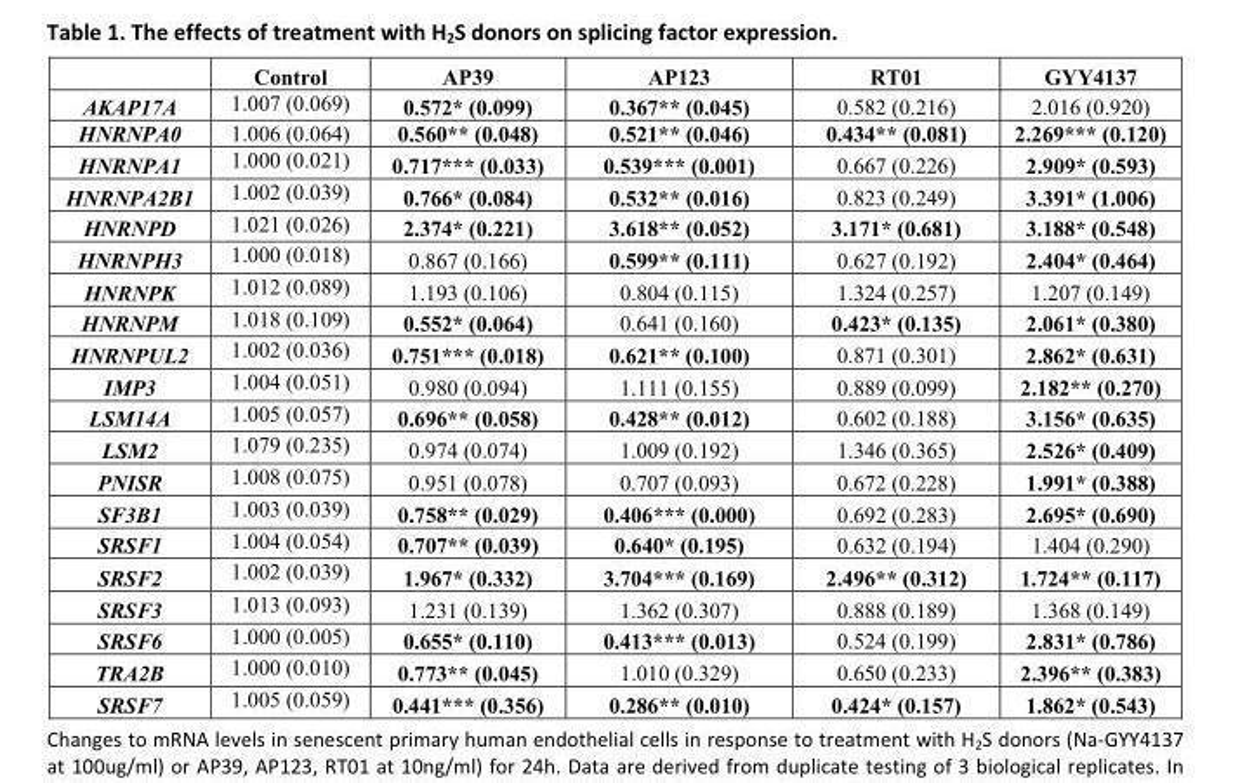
<table><thead><tr><td></td><td>Control</td><td>AP39</td><td>AP123</td><td>RT01</td><td>GYY4137</td></tr></thead><tbody><tr><td>AKAP17A</td><td>1.007 (0.069)</td><td>0.572* (0.099)</td><td>0.367** (0.045)</td><td>0.582 (0.216)</td><td>2.016 (0.920)</td></tr><tr><td>HNRNPA0</td><td>1.006 (0.064)</td><td>0.560** (0.048)</td><td>0.521** (0.046)</td><td>0.434** (0.081)</td><td>2.269*** (0.120)</td></tr><tr><td>HNRNPA1</td><td>1.000 (0.021)</td><td>0.717*** (0.033)</td><td>0.539*** (0.001)</td><td>0.667 (0.226)</td><td>2.909* (0.593)</td></tr><tr><td>HNRNPA2B1</td><td>1.002 (0.039)</td><td>0.766* (0.084)</td><td>0.532** (0.016)</td><td>0.823 (0.249)</td><td>3.391* (1.006)</td></tr><tr><td>HNRNPD</td><td>1.021 (0.026)</td><td>2.374* (0.221)</td><td>3.618** (0.052)</td><td>3.171* (0.681)</td><td>3.188* (0.548)</td></tr><tr><td>HNRNPH3</td><td>1.000 (0.018)</td><td>0.867 (0.166)</td><td>0.599** (0.111)</td><td>0.627 (0.192)</td><td>2.404* (0.464)</td></tr><tr><td>HNRNPK</td><td>1.012 (0.089)</td><td>1.193 (0.106)</td><td>0.804 (0.115)</td><td>1.324 (0.257)</td><td>1.207 (0.149)</td></tr><tr><td>HNRNPM</td><td>1.018 (0.109)</td><td>0.552* (0.064)</td><td>0.641 (0.160)</td><td>0.423* (0.135)</td><td>2.061* (0.380)</td></tr><tr><td>HNRNPUL2</td><td>1.002 (0.036)</td><td>0.751*** (0.018)</td><td>0.621** (0.100)</td><td>0.871 (0.301)</td><td>2.862* (0.631)</td></tr><tr><td>IMP3</td><td>1.004 (0.051)</td><td>0.980 (0.094)</td><td>1.111 (0.155)</td><td>0.889 (0.099)</td><td>2.182** (0.270)</td></tr><tr><td>LSM14A</td><td>1.005 (0.057)</td><td>0.696** (0.058)</td><td>0.428** (0.012)</td><td>0.602 (0.188)</td><td>3.156* (0.635)</td></tr><tr><td>LSM2</td><td>1.079 (0.235)</td><td>0.974 (0.074)</td><td>1.009 (0.192)</td><td>1.346 (0.365)</td><td>2.526* (0.409)</td></tr><tr><td>PNISR</td><td>1.008 (0.075)</td><td>0.951 (0.078)</td><td>0.707 (0.093)</td><td>0.672 (0.228)</td><td>1.991* (0.388)</td></tr><tr><td>SF3B1</td><td>1.003 (0.039)</td><td>0.758** (0.029)</td><td>0.406*** (0.000)</td><td>0.692 (0.283)</td><td>2.695* (0.690)</td></tr><tr><td>SRSF1</td><td>1.004 (0.054)</td><td>0.707** (0.039)</td><td>0.640* (0.195)</td><td>0.632 (0.194)</td><td>1.404 (0.290)</td></tr><tr><td>SRSF2</td><td>1.002 (0.039)</td><td>1.967* (0.332)</td><td>3.704*** (0.169)</td><td>2.496** (0.312)</td><td>1.724** (0.117)</td></tr><tr><td>SRSF3</td><td>1.013 (0.093)</td><td>1.231 (0.139)</td><td>1.362 (0.307)</td><td>0.888 (0.189)</td><td>1.368 (0.149)</td></tr><tr><td>SRSF6</td><td>1.000 (0.005)</td><td>0.655* (0.110)</td><td>0.413*** (0.013)</td><td>0.524 (0.199)</td><td>2.831* (0.786)</td></tr><tr><td>TRA2B</td><td>1.000 (0.010)</td><td>0.773** (0.045)</td><td>1.010 (0.329)</td><td>0.650 (0.233)</td><td>2.396** (0.383)</td></tr><tr><td>SRSF7</td><td>1.005 (0.059)</td><td>0.441*** (0.356)</td><td>0.286** (0.010)</td><td>0.424* (0.157)</td><td>1.862* (0.543)</td></tr></tbody></table>